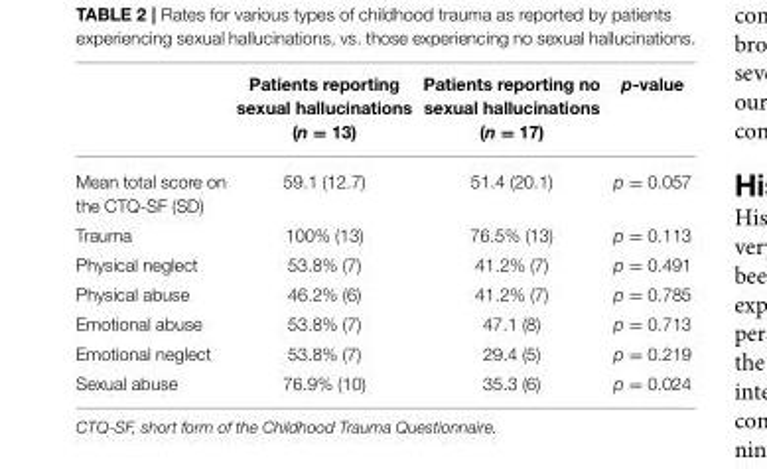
<table><thead><tr><td></td><td>Patients reporting sexual hallucinations (n = 13)</td><td>Patients reporting no sexual hallucinations (n = 17)</td><td>p-value</td></tr></thead><tbody><tr><td>Mean total score on the CTQ-SF (SD)</td><td>59.1 (12.7)</td><td>51.4 (20.1)</td><td>p = 0.057</td></tr><tr><td>Trauma</td><td>100% (13)</td><td>76.5% (13)</td><td>p = 0.113</td></tr><tr><td>Physical neglect</td><td>53.8% (7)</td><td>41.2% (7)</td><td>p = 0.491</td></tr><tr><td>Physical abuse</td><td>46.2% (6)</td><td>41.2% (7)</td><td>p = 0.785</td></tr><tr><td>Emotional abuse</td><td>53.8% (7)</td><td>47.1 (8)</td><td>p = 0.713</td></tr><tr><td>Emotional neglect</td><td>53.8% (7)</td><td>29.4 (5)</td><td>p = 0.219</td></tr><tr><td>Sexual abuse</td><td>76.9% (10)</td><td>35.3 (6)</td><td>p = 0.024</td></tr></tbody></table>